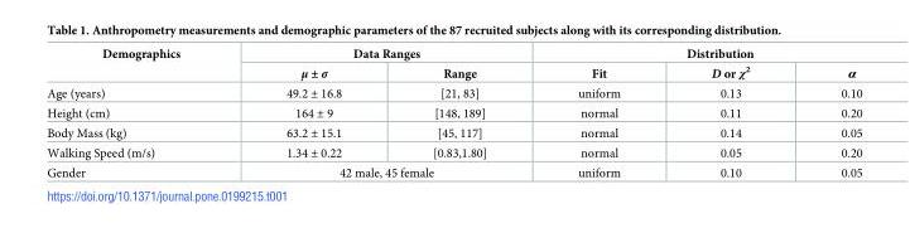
<table><thead><tr><td rowspan="2">Demographics</td><td colspan="2">Data Ranges</td><td colspan="3">Distribution</td></tr><tr><td>μ ± σ</td><td>Range</td><td>Fit</td><td>D or χ<sup>2</sup></td><td>α</td></tr></thead><tbody><tr><td>Age (years)</td><td>49.2 ± 16.8</td><td>[21, 83]</td><td>uniform</td><td>0.13</td><td>0.10</td></tr><tr><td>Height (cm)</td><td>164 ± 9</td><td>[148, 189]</td><td>normal</td><td>0.11</td><td>0.20</td></tr><tr><td>Body Mass (kg)</td><td>63.2 ± 15.1</td><td>[45, 117]</td><td>normal</td><td>0.14</td><td>0.05</td></tr><tr><td>Walking Speed (m/s)</td><td>1.34 ± 0.22</td><td>[0.83,1.80]</td><td>normal</td><td>0.05</td><td>0.20</td></tr><tr><td>Gender</td><td colspan="2">42 male, 45 female</td><td>uniform</td><td>0.10</td><td>0.05</td></tr></tbody></table>